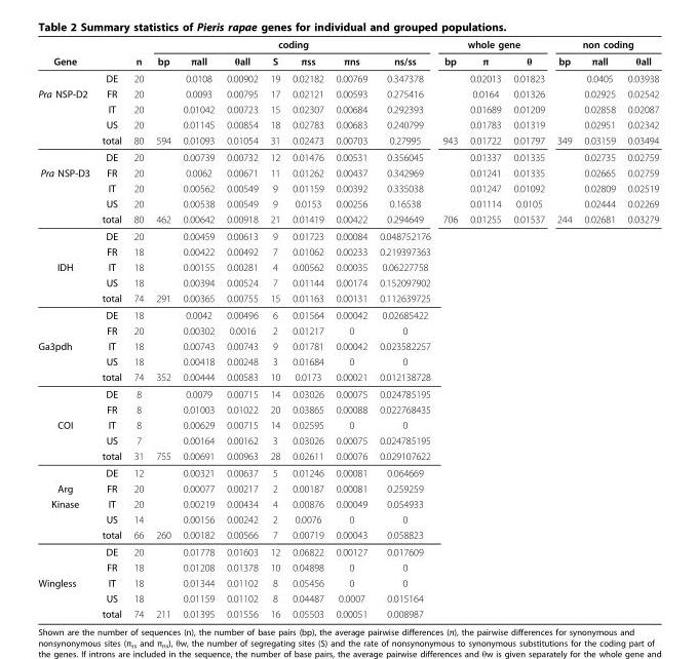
<table><thead><tr><td rowspan="2">Gene</td><td rowspan="2"></td><td rowspan="2">n</td><td colspan="7">coding</td><td colspan="3">whole gene</td><td colspan="3">non coding</td></tr><tr><td>bp</td><td>πall</td><td>θall</td><td>S</td><td>πss</td><td>πns</td><td>ns/ss</td><td>bp</td><td>π</td><td>θ</td><td>bp</td><td>πall</td><td>θall</td></tr></thead><tbody><tr><td></td><td>DE</td><td>20</td><td></td><td>0.0108</td><td>0.00902</td><td>19</td><td>0.02182</td><td>0.00769</td><td>0.347378</td><td></td><td>0.02013</td><td>0.01823</td><td></td><td>0.0405</td><td>0.03938</td></tr><tr><td>Pra NSP-D2</td><td>FR</td><td>20</td><td></td><td>0.0093</td><td>0.00795</td><td>17</td><td>0.02121</td><td>0.00593</td><td>0.275416</td><td></td><td>0.0164</td><td>0.01326</td><td></td><td>0.02925</td><td>0.02542</td></tr><tr><td rowspan="4"></td><td>IT</td><td>20</td><td></td><td>0.01042</td><td>0.00723</td><td>15</td><td>0.02307</td><td>0.00684</td><td>0.292393</td><td></td><td>0.01689</td><td>0.01209</td><td></td><td>0.02858</td><td>0.02087</td></tr><tr><td>US</td><td>20</td><td></td><td>0.01145</td><td>0.00854</td><td>18</td><td>0.02783</td><td>0.00683</td><td>0.240799</td><td></td><td>0.01783</td><td>0.01319</td><td></td><td>0.02951</td><td>0.02342</td></tr><tr><td>total</td><td>80</td><td>594</td><td>0.01093</td><td>0.01054</td><td>31</td><td>0.02473</td><td>0.00703</td><td>0.27995</td><td>943</td><td>0.01722</td><td>0.01797</td><td>349</td><td>0.03159</td><td>0.03494</td></tr><tr><td>DE</td><td>20</td><td></td><td>0.00739</td><td>0.00732</td><td>12</td><td>0.01476</td><td>0.00531</td><td>0.356045</td><td></td><td>0.01337</td><td>0.01335</td><td></td><td>0.02735</td><td>0.02759</td></tr><tr><td>Pra NSP-D3</td><td>FR</td><td>20</td><td></td><td>0.0062</td><td>0.00671</td><td>11</td><td>0.01262</td><td>0.00437</td><td>0.342969</td><td></td><td>0.01241</td><td>0.01335</td><td></td><td>0.02665</td><td>0.02759</td></tr><tr><td rowspan="5"></td><td>IT</td><td>20</td><td></td><td>0.00562</td><td>0.00549</td><td>9</td><td>0.01159</td><td>0.00392</td><td>0.335038</td><td></td><td>0.01247</td><td>0.01092</td><td></td><td>0.02809</td><td>0.02519</td></tr><tr><td>US</td><td>20</td><td></td><td>0.00538</td><td>0.00549</td><td>9</td><td>0.0153</td><td>0.00256</td><td>0.16538</td><td></td><td>0.01114</td><td>0.0105</td><td></td><td>0.02444</td><td>0.02269</td></tr><tr><td>total</td><td>80</td><td>462</td><td>0.00642</td><td>0.00918</td><td>21</td><td>0.01419</td><td>0.00422</td><td>0.294649</td><td>706</td><td>0.01255</td><td>0.01537</td><td>244</td><td>0.02681</td><td>0.03279</td></tr><tr><td>DE</td><td>20</td><td></td><td>0.00459</td><td>0.00613</td><td>9</td><td>0.01723</td><td>0.00084</td><td>0.048752176</td><td></td><td></td><td></td><td></td><td></td><td></td></tr><tr><td>FR</td><td>18</td><td></td><td>0.00422</td><td>0.00492</td><td>7</td><td>0.01062</td><td>0.00233</td><td>0.219397363</td><td></td><td></td><td></td><td></td><td></td><td></td></tr><tr><td rowspan="5">IDH</td><td>IT</td><td>18</td><td></td><td>0.00155</td><td>0.00281</td><td>4</td><td>0.00562</td><td>0.00035</td><td>0.06227758</td><td></td><td></td><td></td><td></td><td></td><td></td></tr><tr><td>US</td><td>18</td><td></td><td>0.00394</td><td>0.00524</td><td>7</td><td>0.01144</td><td>0.00174</td><td>0.152097902</td><td></td><td></td><td></td><td></td><td></td><td></td></tr><tr><td>total</td><td>74</td><td>291</td><td>0.00365</td><td>0.00755</td><td>15</td><td>0.01163</td><td>0.00131</td><td>0.112639725</td><td></td><td></td><td></td><td></td><td></td><td></td></tr><tr><td>DE</td><td>18</td><td></td><td>0.0042</td><td>0.00496</td><td>6</td><td>0.01564</td><td>0.00042</td><td>0.02685422</td><td></td><td></td><td></td><td></td><td></td><td></td></tr><tr><td>FR</td><td>20</td><td></td><td>0.00302</td><td>0.0016</td><td>2</td><td>0.01217</td><td>0</td><td>0</td><td></td><td></td><td></td><td></td><td></td><td></td></tr><tr><td rowspan="5">Ga3pdh</td><td>IT</td><td>18</td><td></td><td>0.00743</td><td>0.00743</td><td>9</td><td>0.01781</td><td>0.00042</td><td>0.023582257</td><td></td><td></td><td></td><td></td><td></td><td></td></tr><tr><td>US</td><td>18</td><td></td><td>0.00418</td><td>0.00248</td><td>3</td><td>0.01684</td><td>0</td><td>0</td><td></td><td></td><td></td><td></td><td></td><td></td></tr><tr><td>total</td><td>74</td><td>352</td><td>0.00444</td><td>0.00583</td><td>10</td><td>0.0173</td><td>0.00021</td><td>0.012138728</td><td></td><td></td><td></td><td></td><td></td><td></td></tr><tr><td>DE</td><td>8</td><td></td><td>0.0079</td><td>0.00715</td><td>14</td><td>0.03026</td><td>0.00075</td><td>0.024785195</td><td></td><td></td><td></td><td></td><td></td><td></td></tr><tr><td>FR</td><td>8</td><td></td><td>0.01003</td><td>0.01022</td><td>20</td><td>0.03865</td><td>0.00088</td><td>0.022768435</td><td></td><td></td><td></td><td></td><td></td><td></td></tr><tr><td rowspan="4">COI</td><td>IT</td><td>8</td><td></td><td>0.00629</td><td>0.00715</td><td>14</td><td>0.02595</td><td>0</td><td>0</td><td></td><td></td><td></td><td></td><td></td><td></td></tr><tr><td>US</td><td>7</td><td></td><td>0.00164</td><td>0.00162</td><td>3</td><td>0.03026</td><td>0.00075</td><td>0.024785195</td><td></td><td></td><td></td><td></td><td></td><td></td></tr><tr><td>total</td><td>31</td><td>755</td><td>0.00691</td><td>0.00963</td><td>28</td><td>0.02611</td><td>0.00076</td><td>0.029107622</td><td></td><td></td><td></td><td></td><td></td><td></td></tr><tr><td>DE</td><td>12</td><td></td><td>0.00321</td><td>0.00637</td><td>5</td><td>0.01246</td><td>0.00081</td><td>0.064669</td><td></td><td></td><td></td><td></td><td></td><td></td></tr><tr><td>Arg</td><td>FR</td><td>20</td><td></td><td>0.00077</td><td>0.00217</td><td>2</td><td>0.00187</td><td>0.00081</td><td>0.259259</td><td></td><td></td><td></td><td></td><td></td><td></td></tr><tr><td rowspan="5">Kinase</td><td>IT</td><td>20</td><td></td><td>0.00219</td><td>0.00434</td><td>4</td><td>0.00876</td><td>0.00049</td><td>0.054933</td><td></td><td></td><td></td><td></td><td></td><td></td></tr><tr><td>US</td><td>14</td><td></td><td>0.00156</td><td>0.00242</td><td>2</td><td>0.0076</td><td>0</td><td>0</td><td></td><td></td><td></td><td></td><td></td><td></td></tr><tr><td>total</td><td>66</td><td>260</td><td>0.00182</td><td>0.00566</td><td>7</td><td>0.00719</td><td>0.00043</td><td>0.058823</td><td></td><td></td><td></td><td></td><td></td><td></td></tr><tr><td>DE</td><td>20</td><td></td><td>0.01778</td><td>0.01603</td><td>12</td><td>0.06822</td><td>0.00127</td><td>0.017609</td><td></td><td></td><td></td><td></td><td></td><td></td></tr><tr><td>FR</td><td>18</td><td></td><td>0.01208</td><td>0.01378</td><td>10</td><td>0.04898</td><td>0</td><td>0</td><td></td><td></td><td></td><td></td><td></td><td></td></tr><tr><td rowspan="3">Wingless</td><td>IT</td><td>18</td><td></td><td>0.01344</td><td>0.01102</td><td>8</td><td>0.05456</td><td>0</td><td>0</td><td></td><td></td><td></td><td></td><td></td><td></td></tr><tr><td>US</td><td>18</td><td></td><td>0.01159</td><td>0.01102</td><td>8</td><td>0.04487</td><td>0.0007</td><td>0.015164</td><td></td><td></td><td></td><td></td><td></td><td></td></tr><tr><td>total</td><td>74</td><td>211</td><td>0.01395</td><td>0.01556</td><td>16</td><td>0.05503</td><td>0.00051</td><td>0.008987</td><td></td><td></td><td></td><td></td><td></td><td></td></tr></tbody></table>